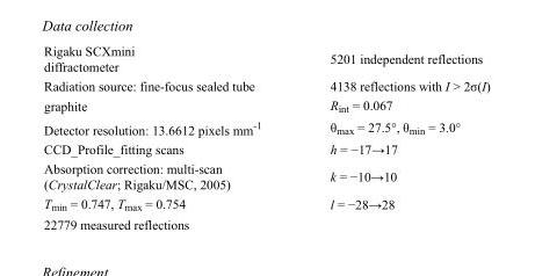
<table><tbody><tr><td>Rigaku SCXmini diffractometer</td><td>5201 independent reflections</td></tr><tr><td>Radiation source: fine-focus sealed tube</td><td>4138 reflections with I &gt; 2σ(I)</td></tr><tr><td>graphite</td><td>R<sub>int</sub> = 0.067</td></tr><tr><td>Detector resolution: 13.6612 pixels mm<sup>-1</sup></td><td>θ<sub>max</sub> = 27.5°, θ<sub>min</sub> = 3.0°</td></tr><tr><td>CCD_Profile_fitting scans</td><td>h = −17→17</td></tr><tr><td>Absorption correction: multi-scan (CrystalClear; Rigaku/MSC, 2005)</td><td>k = −10→10</td></tr><tr><td>T<sub>min</sub> = 0.747, T<sub>max</sub> = 0.754</td><td>l = −28→28</td></tr><tr><td>22779 measured reflections</td><td></td></tr></tbody></table>